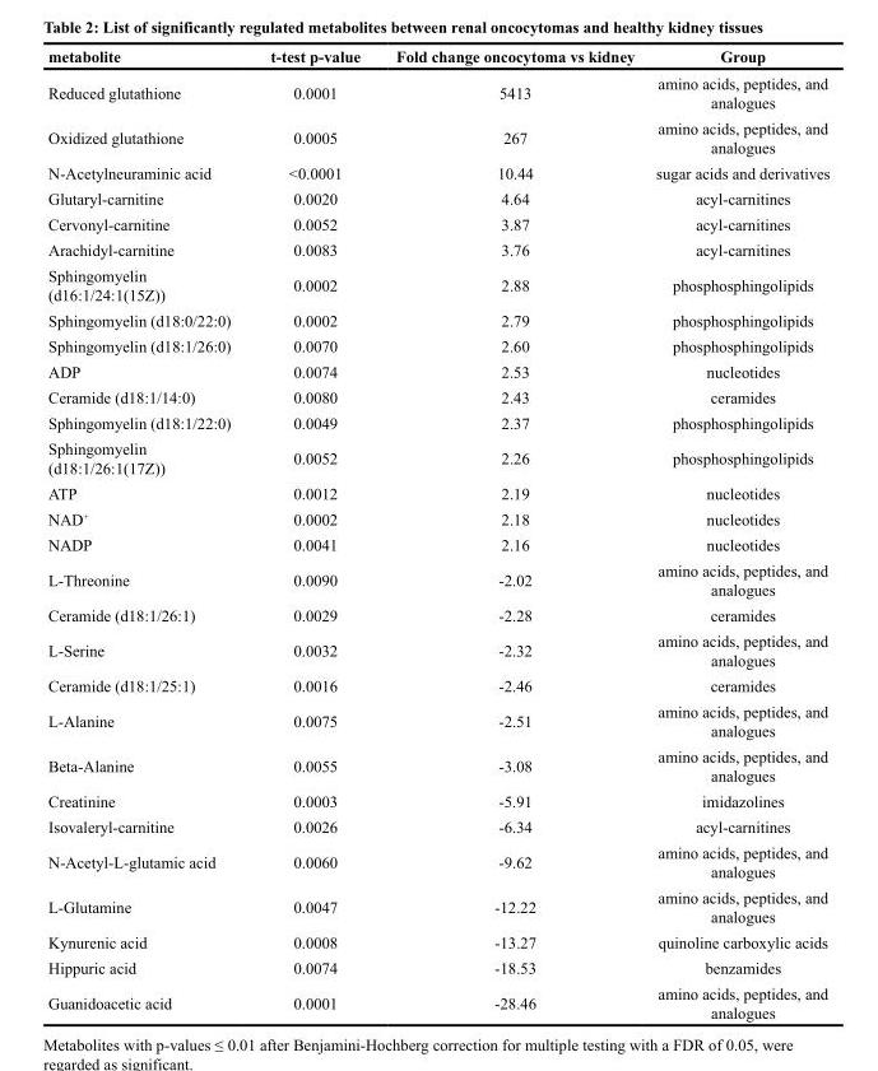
<table><thead><tr><td>metabolite</td><td>t-test p-value</td><td>Fold change oncocytoma vs kidney</td><td>Group</td></tr></thead><tbody><tr><td>Reduced glutathione</td><td>0.0001</td><td>5413</td><td>amino acids, peptides, and analogues</td></tr><tr><td>Oxidized glutathione</td><td>0.0005</td><td>267</td><td>amino acids, peptides, and analogues</td></tr><tr><td>N-Acetylneuraminic acid</td><td>&lt;0.0001</td><td>10.44</td><td>sugar acids and derivatives</td></tr><tr><td>Glutaryl-carnitine</td><td>0.0020</td><td>4.64</td><td>acyl-carnitines</td></tr><tr><td>Cervonyl-carnitine</td><td>0.0052</td><td>3.87</td><td>acyl-carnitines</td></tr><tr><td>Arachidyl-carnitine</td><td>0.0083</td><td>3.76</td><td>acyl-carnitines</td></tr><tr><td>Sphingomyelin (d16:1/24:1(15Z))</td><td>0.0002</td><td>2.88</td><td>phosphosphingolipids</td></tr><tr><td>Sphingomyelin (d18:0/22:0)</td><td>0.0002</td><td>2.79</td><td>phosphosphingolipids</td></tr><tr><td>Sphingomyelin (d18:1/26:0)</td><td>0.0070</td><td>2.60</td><td>phosphosphingolipids</td></tr><tr><td>ADP</td><td>0.0074</td><td>2.53</td><td>nucleotides</td></tr><tr><td>Ceramide (d18:1/14:0)</td><td>0.0080</td><td>2.43</td><td>ceramides</td></tr><tr><td>Sphingomyelin (d18:1/22:0)</td><td>0.0049</td><td>2.37</td><td>phosphosphingolipids</td></tr><tr><td>Sphingomyelin (d18:1/26:1(17Z))</td><td>0.0052</td><td>2.26</td><td>phosphosphingolipids</td></tr><tr><td>ATP</td><td>0.0012</td><td>2.19</td><td>nucleotides</td></tr><tr><td>NAD<sup>+</sup></td><td>0.0002</td><td>2.18</td><td>nucleotides</td></tr><tr><td>NADP</td><td>0.0041</td><td>2.16</td><td>nucleotides</td></tr><tr><td>L-Threonine</td><td>0.0090</td><td>-2.02</td><td>amino acids, peptides, and analogues</td></tr><tr><td>Ceramide (d18:1/26:1)</td><td>0.0029</td><td>-2.28</td><td>ceramides</td></tr><tr><td>L-Serine</td><td>0.0032</td><td>-2.32</td><td>amino acids, peptides, and analogues</td></tr><tr><td>Ceramide (d18:1/25:1)</td><td>0.0016</td><td>-2.46</td><td>ceramides</td></tr><tr><td>L-Alanine</td><td>0.0075</td><td>-2.51</td><td>amino acids, peptides, and analogues</td></tr><tr><td>Beta-Alanine</td><td>0.0055</td><td>-3.08</td><td>amino acids, peptides, and analogues</td></tr><tr><td>Creatinine</td><td>0.0003</td><td>-5.91</td><td>imidazolines</td></tr><tr><td>Isovaleryl-carnitine</td><td>0.0026</td><td>-6.34</td><td>acyl-carnitines</td></tr><tr><td>N-Acetyl-L-glutamic acid</td><td>0.0060</td><td>-9.62</td><td>amino acids, peptides, and analogues</td></tr><tr><td>L-Glutamine</td><td>0.0047</td><td>-12.22</td><td>amino acids, peptides, and analogues</td></tr><tr><td>Kynurenic acid</td><td>0.0008</td><td>-13.27</td><td>quinoline carboxylic acids</td></tr><tr><td>Hippuric acid</td><td>0.0074</td><td>-18.53</td><td>benzamides</td></tr><tr><td>Guanidoacetic acid</td><td>0.0001</td><td>-28.46</td><td>amino acids, peptides, and analogues</td></tr></tbody></table>